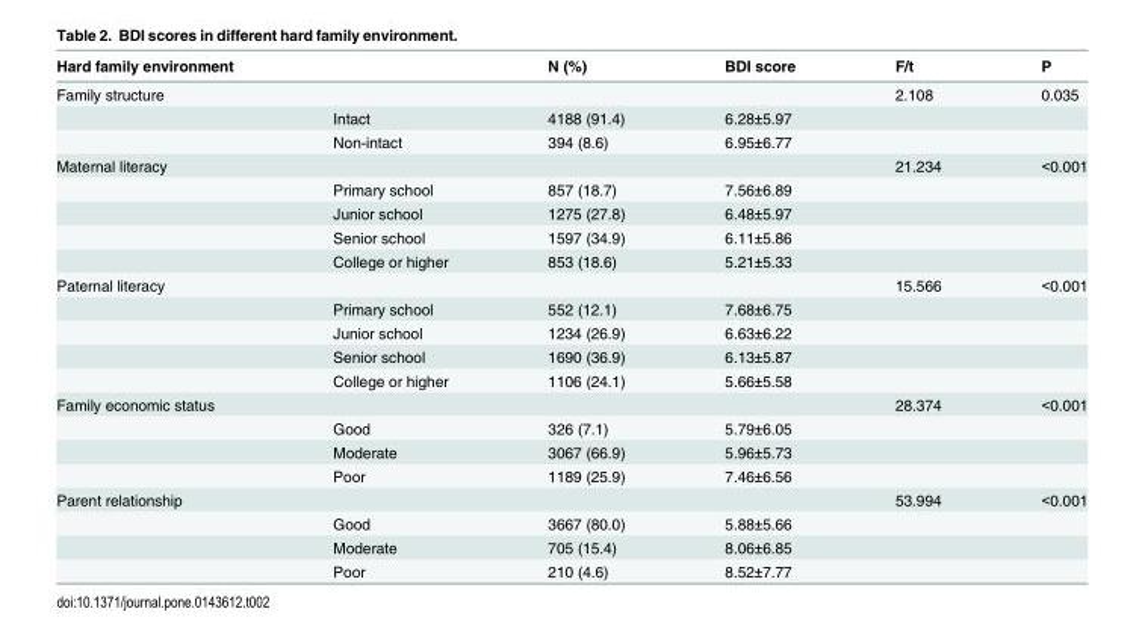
<table><thead><tr><td>Hard family environment</td><td></td><td>N (%)</td><td>BDI score</td><td>F/t</td><td>P</td></tr></thead><tbody><tr><td rowspan="3">Family structure</td><td></td><td></td><td></td><td>2.108</td><td>0.035</td></tr><tr><td>Intact</td><td>4188 (91.4)</td><td>6.28±5.97</td><td></td><td></td></tr><tr><td>Non-intact</td><td>394 (8.6)</td><td>6.95±6.77</td><td></td><td></td></tr><tr><td rowspan="5">Maternal literacy</td><td></td><td></td><td></td><td>21.234</td><td>&lt;0.001</td></tr><tr><td>Primary school</td><td>857 (18.7)</td><td>7.56±6.89</td><td></td><td></td></tr><tr><td>Junior school</td><td>1275 (27.8)</td><td>6.48±5.97</td><td></td><td></td></tr><tr><td>Senior school</td><td>1597 (34.9)</td><td>6.11±5.86</td><td></td><td></td></tr><tr><td>College or higher</td><td>853 (18.6)</td><td>5.21±5.33</td><td></td><td></td></tr><tr><td rowspan="5">Paternal literacy</td><td></td><td></td><td></td><td>15.566</td><td>&lt;0.001</td></tr><tr><td>Primary school</td><td>552 (12.1)</td><td>7.68±6.75</td><td></td><td></td></tr><tr><td>Junior school</td><td>1234 (26.9)</td><td>6.63±6.22</td><td></td><td></td></tr><tr><td>Senior school</td><td>1690 (36.9)</td><td>6.13±5.87</td><td></td><td></td></tr><tr><td>College or higher</td><td>1106 (24.1)</td><td>5.66±5.58</td><td></td><td></td></tr><tr><td rowspan="4">Family economic status</td><td></td><td></td><td></td><td>28.374</td><td>&lt;0.001</td></tr><tr><td>Good</td><td>326 (7.1)</td><td>5.79±6.05</td><td></td><td></td></tr><tr><td>Moderate</td><td>3067 (66.9)</td><td>5.96±5.73</td><td></td><td></td></tr><tr><td>Poor</td><td>1189 (25.9)</td><td>7.46±6.56</td><td></td><td></td></tr><tr><td rowspan="4">Parent relationship</td><td></td><td></td><td></td><td>53.994</td><td>&lt;0.001</td></tr><tr><td>Good</td><td>3667 (80.0)</td><td>5.88±5.66</td><td></td><td></td></tr><tr><td>Moderate</td><td>705 (15.4)</td><td>8.06±6.85</td><td></td><td></td></tr><tr><td>Poor</td><td>210 (4.6)</td><td>8.52±7.77</td><td></td><td></td></tr></tbody></table>